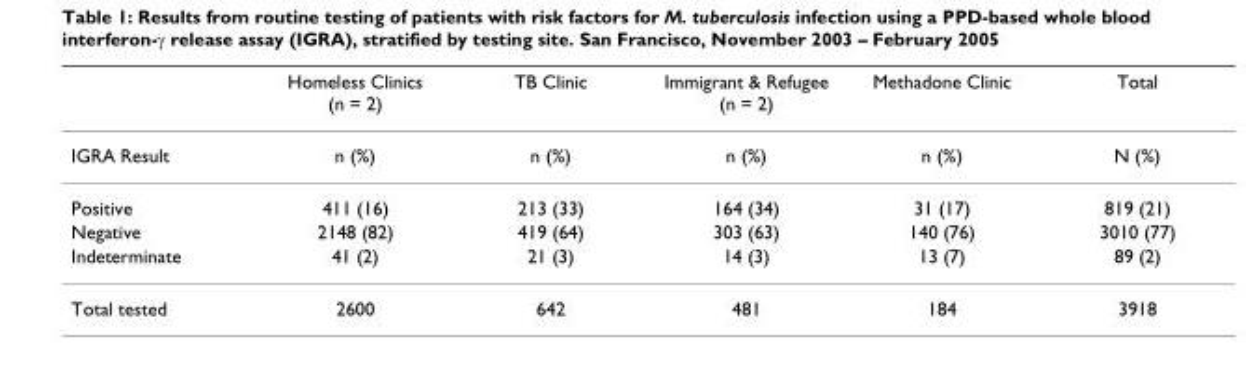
<table><thead><tr><td></td><td>Homeless Clinics (n = 2)</td><td>TB Clinic</td><td>Immigrant &amp; Refugee (n = 2)</td><td>Methadone Clinic</td><td>Total</td></tr></thead><tbody><tr><td>IGRA Result</td><td>n (%)</td><td>n (%)</td><td>n (%)</td><td>n (%)</td><td>N (%)</td></tr><tr><td>Positive</td><td>411 (16)</td><td>213 (33)</td><td>164 (34)</td><td>31 (17)</td><td>819 (21)</td></tr><tr><td>Negative</td><td>2148 (82)</td><td>419 (64)</td><td>303 (63)</td><td>140 (76)</td><td>3010 (77)</td></tr><tr><td>Indeterminate</td><td>41 (2)</td><td>21 (3)</td><td>14 (3)</td><td>13 (7)</td><td>89 (2)</td></tr><tr><td>Total tested</td><td>2600</td><td>642</td><td>481</td><td>184</td><td>3918</td></tr></tbody></table>